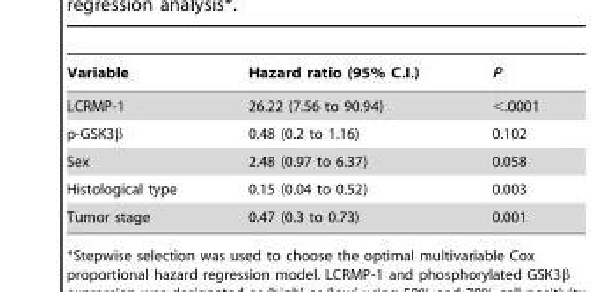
<table><thead><tr><td>Variable</td><td>Hazard ratio (95% C.I.)</td><td>P</td></tr></thead><tbody><tr><td>LCRMP-1</td><td>26.22 (7.56 to 90.94)</td><td>&lt;.0001</td></tr><tr><td>p-GSK3β</td><td>0.48 (0.2 to 1.16)</td><td>0.102</td></tr><tr><td>Sex</td><td>2.48 (0.97 to 6.37)</td><td>0.058</td></tr><tr><td>Histological type</td><td>0.15 (0.04 to 0.52)</td><td>0.003</td></tr><tr><td>Tumor stage</td><td>0.47 (0.3 to 0.73)</td><td>0.001</td></tr></tbody></table>